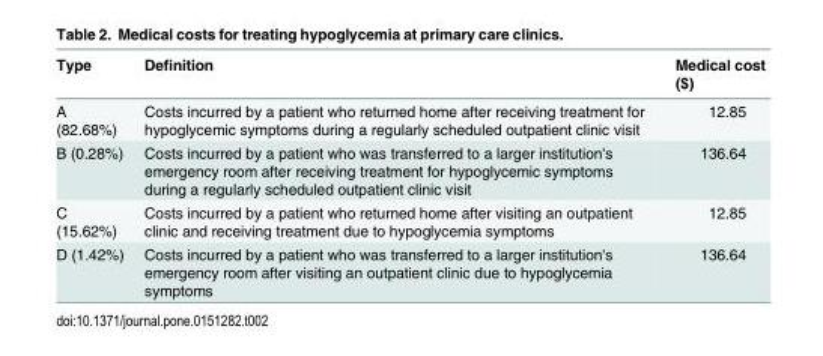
<table><thead><tr><td>Type</td><td>Definition</td><td>Medical cost ($)</td></tr></thead><tbody><tr><td>A (82.68%)</td><td>Costs incurred by a patient who returned home after receiving treatment for hypoglycemic symptoms during a regularly scheduled outpatient clinic visit</td><td>12.85</td></tr><tr><td>B (0.28%)</td><td>Costs incurred by a patient who was transferred to a larger institution&#x27;s emergency room after receiving treatment for hypoglycemic symptoms during a regularly scheduled outpatient clinic visit</td><td>136.64</td></tr><tr><td>C (15.62%)</td><td>Costs incurred by a patient who returned home after visiting an outpatient clinic and receiving treatment due to hypoglycemia symptoms</td><td>12.85</td></tr><tr><td>D (1.42%)</td><td>Costs incurred by a patient who was transferred to a larger institution&#x27;s emergency room after visiting an outpatient clinic due to hypoglycemia symptoms</td><td>136.64</td></tr></tbody></table>